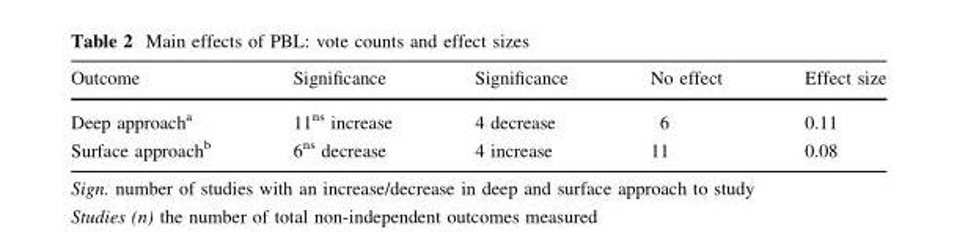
<table><thead><tr><td>Outcome</td><td>Significance</td><td>Significance</td><td>No effect</td><td>Effect size</td></tr></thead><tbody><tr><td>Deep approach<sup>a</sup></td><td>11<sup>ns</sup> increase</td><td>4 decrease</td><td>6</td><td>0.11</td></tr><tr><td>Surface approach<sup>b</sup></td><td>6<sup>ns</sup> decrease</td><td>4 increase</td><td>11</td><td>0.08</td></tr></tbody></table>